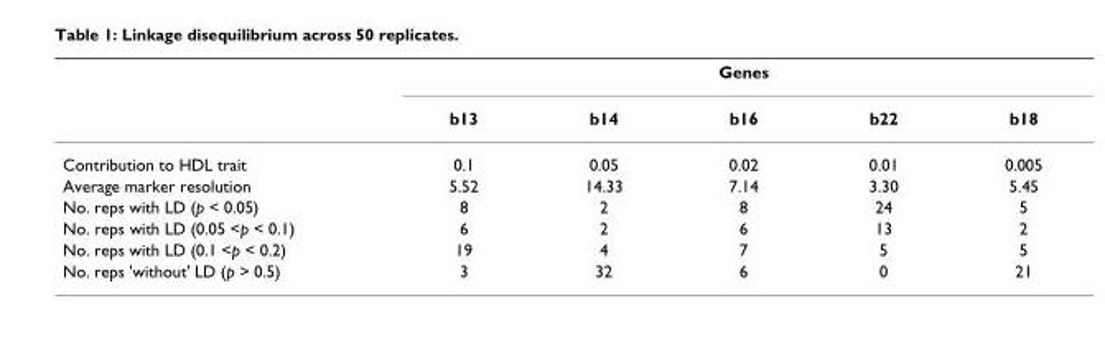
<table><thead><tr><td rowspan="2"></td><td colspan="5">Genes</td></tr><tr><td>b13</td><td>b14</td><td>b16</td><td>b22</td><td>b18</td></tr></thead><tbody><tr><td>Contribution to HDL trait</td><td>0.1</td><td>0.05</td><td>0.02</td><td>0.01</td><td>0.005</td></tr><tr><td>Average marker resolution</td><td>5.52</td><td>14.33</td><td>7.14</td><td>3.30</td><td>5.45</td></tr><tr><td>No. reps with LD (p &lt; 0.05)</td><td>8</td><td>2</td><td>8</td><td>24</td><td>5</td></tr><tr><td>No. reps with LD (0.05 &lt;p &lt; 0.1)</td><td>6</td><td>2</td><td>6</td><td>13</td><td>2</td></tr><tr><td>No. reps with LD (0.1 &lt;p &lt; 0.2)</td><td>19</td><td>4</td><td>7</td><td>5</td><td>5</td></tr><tr><td>No. reps &#x27;without&#x27; LD (p &gt; 0.5)</td><td>3</td><td>32</td><td>6</td><td>0</td><td>21</td></tr></tbody></table>